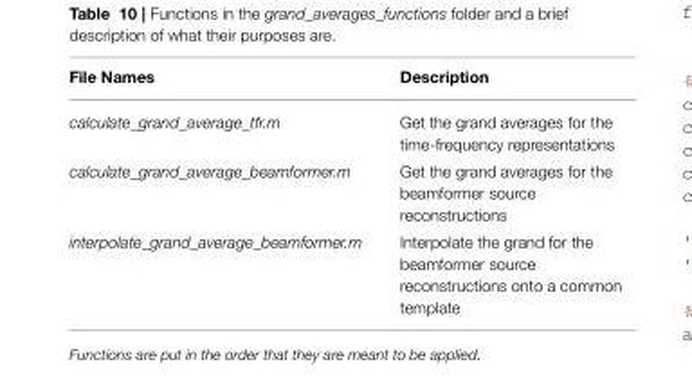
<table><thead><tr><td>File Names</td><td>Description</td></tr></thead><tbody><tr><td>calculate_grand_average_tfr.m</td><td>Get the grand averages for the time-frequency representations</td></tr><tr><td>calculate_grand_average_beamformer.m</td><td>Get the grand averages for the beamformer source reconstructions</td></tr><tr><td>interpolate_grand_average_beamformer.m</td><td>Interpolate the grand for the beamformer source reconstructions onto a common template</td></tr></tbody></table>